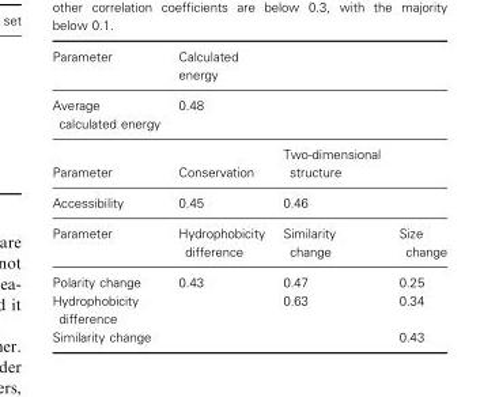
<table><thead><tr><td>Parameter</td><td>Calculated energy</td><td></td><td></td></tr></thead><tbody><tr><td>Average calculated energy</td><td>0.48</td><td></td><td></td></tr><tr><td>Parameter</td><td>Conservation</td><td>Two-dimensional structure</td><td></td></tr><tr><td>Accessibility</td><td>0.45</td><td>0.46</td><td></td></tr><tr><td>Parameter</td><td>Hydrophobicity difference</td><td>Similarity change</td><td>Size change</td></tr><tr><td>Polarity change</td><td>0.43</td><td>0.47</td><td>0.25</td></tr><tr><td>Hydrophobicity difference</td><td></td><td>0.63</td><td>0.34</td></tr><tr><td>Similarity change</td><td></td><td></td><td>0.43</td></tr></tbody></table>